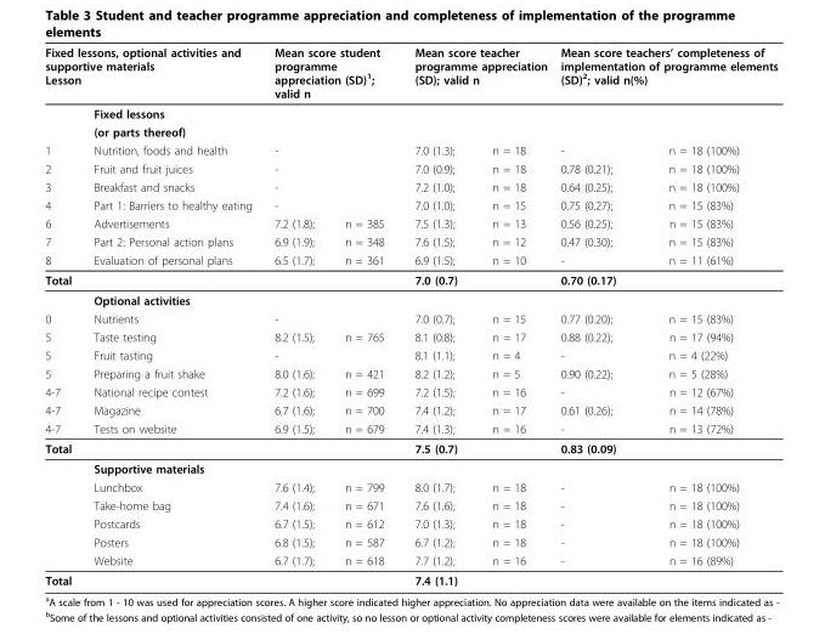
<table><thead><tr><td colspan="2">Fixed lessons, optional activities and supportive materials Lesson</td><td colspan="2">Mean score student programme appreciation (SD)<sup>1</sup>; valid n</td><td colspan="2">Mean score teacher programme appreciation (SD); valid n</td><td colspan="2">Mean score teachers’ completeness of implementation of programme elements (SD)<sup>2</sup>; valid n(%)</td></tr><tr><td></td><td>Fixed lessons</td><td></td><td></td><td></td><td></td><td></td><td></td></tr></thead><tbody><tr><td></td><td>(or parts thereof)</td><td></td><td></td><td></td><td></td><td></td><td></td></tr><tr><td>1</td><td>Nutrition, foods and health</td><td>-</td><td></td><td>7.0 (1.3);</td><td>n = 18</td><td>-</td><td>n = 18 (100%)</td></tr><tr><td>2</td><td>Fruit and fruit juices</td><td>-</td><td></td><td>7.0 (0.9);</td><td>n = 18</td><td>0.78 (0.21);</td><td>n = 18 (100%)</td></tr><tr><td>3</td><td>Breakfast and snacks</td><td>-</td><td></td><td>7.2 (1.0);</td><td>n = 18</td><td>0.64 (0.25);</td><td>n = 18 (100%)</td></tr><tr><td>4</td><td>Part 1: Barriers to healthy eating</td><td>-</td><td></td><td>7.0 (1.0);</td><td>n = 15</td><td>0.75 (0.27);</td><td>n = 15 (83%)</td></tr><tr><td>6</td><td>Advertisements</td><td>7.2 (1.8);</td><td>n = 385</td><td>7.5 (1.3);</td><td>n = 13</td><td>0.56 (0.25);</td><td>n = 15 (83%)</td></tr><tr><td>7</td><td>Part 2: Personal action plans</td><td>6.9 (1.9);</td><td>n = 348</td><td>7.6 (1.5);</td><td>n = 12</td><td>0.47 (0.30);</td><td>n = 15 (83%)</td></tr><tr><td>8</td><td>Evaluation of personal plans</td><td>6.5 (1.7);</td><td>n = 361</td><td>6.9 (1.5);</td><td>n = 10</td><td>-</td><td>n = 11 (61%)</td></tr><tr><td rowspan="2">Total</td><td></td><td></td><td></td><td>7.0 (0.7)</td><td></td><td>0.70 (0.17)</td><td></td></tr><tr><td>Optional activities</td><td></td><td></td><td></td><td></td><td></td><td></td></tr><tr><td>0</td><td>Nutrients</td><td>-</td><td></td><td>7.0 (0.7);</td><td>n = 15</td><td>0.77 (0.20);</td><td>n = 15 (83%)</td></tr><tr><td>5</td><td>Taste testing</td><td>8.2 (1.5);</td><td>n = 765</td><td>8.1 (0.8);</td><td>n = 17</td><td>0.88 (0.22);</td><td>n = 17 (94%)</td></tr><tr><td>5</td><td>Fruit tasting</td><td>-</td><td></td><td>8.1 (1.1);</td><td>n = 4</td><td>-</td><td>n = 4 (22%)</td></tr><tr><td>5</td><td>Preparing a fruit shake</td><td>8.0 (1.6);</td><td>n = 421</td><td>8.2 (1.2);</td><td>n = 5</td><td>0.90 (0.22);</td><td>n = 5 (28%)</td></tr><tr><td>4-7</td><td>National recipe contest</td><td>7.2 (1.6);</td><td>n = 699</td><td>7.2 (1.5);</td><td>n = 16</td><td>-</td><td>n = 12 (67%)</td></tr><tr><td>4-7</td><td>Magazine</td><td>6.7 (1.6);</td><td>n = 700</td><td>7.4 (1.2);</td><td>n = 17</td><td>0.61 (0.26);</td><td>n = 14 (78%)</td></tr><tr><td>4-7</td><td>Tests on website</td><td>6.9 (1.5);</td><td>n = 679</td><td>7.4 (1.3);</td><td>n = 16</td><td>-</td><td>n = 13 (72%)</td></tr><tr><td rowspan="7">Total</td><td></td><td></td><td></td><td>7.5 (0.7)</td><td></td><td>0.83 (0.09)</td><td></td></tr><tr><td>Supportive materials</td><td></td><td></td><td></td><td></td><td></td><td></td></tr><tr><td>Lunchbox</td><td>7.6 (1.4);</td><td>n = 799</td><td>8.0 (1.7);</td><td>n = 18</td><td>-</td><td>n = 18 (100%)</td></tr><tr><td>Take-home bag</td><td>7.4 (1.6);</td><td>n = 671</td><td>7.6 (1.6);</td><td>n = 18</td><td>-</td><td>n = 18 (100%)</td></tr><tr><td>Postcards</td><td>6.7 (1.5);</td><td>n = 612</td><td>7.0 (1.3);</td><td>n = 18</td><td>-</td><td>n = 18 (100%)</td></tr><tr><td>Posters</td><td>6.8 (1.5);</td><td>n = 587</td><td>6.7 (1.2);</td><td>n = 18</td><td>-</td><td>n = 18 (100%)</td></tr><tr><td>Website</td><td>6.7 (1.7);</td><td>n = 618</td><td>7.7 (1.2);</td><td>n = 16</td><td>-</td><td>n = 16 (89%)</td></tr><tr><td>Total</td><td></td><td></td><td></td><td>7.4 (1.1)</td><td></td><td></td><td></td></tr></tbody></table>